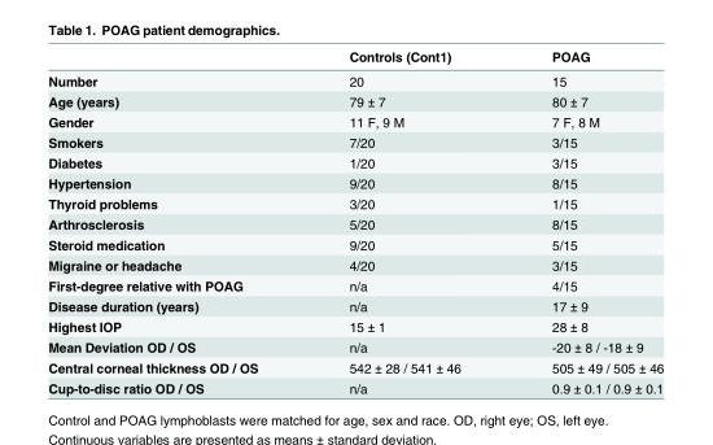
<table><thead><tr><td></td><td>Controls (Cont1)</td><td>POAG</td></tr></thead><tbody><tr><td>Number</td><td>20</td><td>15</td></tr><tr><td>Age (years)</td><td>79 ± 7</td><td>80 ± 7</td></tr><tr><td>Gender</td><td>11 F, 9 M</td><td>7 F, 8 M</td></tr><tr><td>Smokers</td><td>7/20</td><td>3/15</td></tr><tr><td>Diabetes</td><td>1/20</td><td>3/15</td></tr><tr><td>Hypertension</td><td>9/20</td><td>8/15</td></tr><tr><td>Thyroid problems</td><td>3/20</td><td>1/15</td></tr><tr><td>Arthrosclerosis</td><td>5/20</td><td>8/15</td></tr><tr><td>Steroid medication</td><td>9/20</td><td>5/15</td></tr><tr><td>Migraine or headache</td><td>4/20</td><td>3/15</td></tr><tr><td>First-degree relative with POAG</td><td>n/a</td><td>4/15</td></tr><tr><td>Disease duration (years)</td><td>n/a</td><td>17 ± 9</td></tr><tr><td>Highest IOP</td><td>15 ± 1</td><td>28 ± 8</td></tr><tr><td>Mean Deviation OD / OS</td><td>n/a</td><td>-20 ± 8 / -18 ± 9</td></tr><tr><td>Central corneal thickness OD / OS</td><td>542 ± 28 / 541 ± 46</td><td>505 ± 49 / 505 ± 46</td></tr><tr><td>Cup-to-disc ratio OD / OS</td><td>n/a</td><td>0.9 ± 0.1 / 0.9 ± 0.1</td></tr></tbody></table>